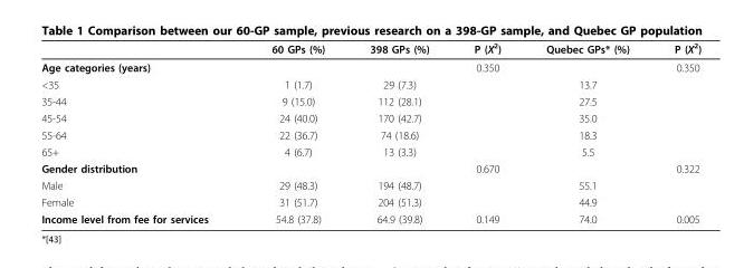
<table><thead><tr><td></td><td>60 GPs (%)</td><td>398 GPs (%)</td><td>P (X<sup>2</sup>)</td><td>Quebec GPs* (%)</td><td>P (X<sup>2</sup>)</td></tr></thead><tbody><tr><td>Age categories (years)</td><td></td><td></td><td>0.350</td><td></td><td>0.350</td></tr><tr><td>&lt;35</td><td>1 (1.7)</td><td>29 (7.3)</td><td></td><td>13.7</td><td></td></tr><tr><td>35-44</td><td>9 (15.0)</td><td>112 (28.1)</td><td></td><td>27.5</td><td></td></tr><tr><td>45-54</td><td>24 (40.0)</td><td>170 (42.7)</td><td></td><td>35.0</td><td></td></tr><tr><td>55-64</td><td>22 (36.7)</td><td>74 (18.6)</td><td></td><td>18.3</td><td></td></tr><tr><td>65+</td><td>4 (6.7)</td><td>13 (3.3)</td><td></td><td>5.5</td><td></td></tr><tr><td>Gender distribution</td><td></td><td></td><td>0.670</td><td></td><td>0.322</td></tr><tr><td>Male</td><td>29 (48.3)</td><td>194 (48.7)</td><td></td><td>55.1</td><td></td></tr><tr><td>Female</td><td>31 (51.7)</td><td>204 (51.3)</td><td></td><td>44.9</td><td></td></tr><tr><td>Income level from fee for services</td><td>54.8 (37.8)</td><td>64.9 (39.8)</td><td>0.149</td><td>74.0</td><td>0.005</td></tr></tbody></table>